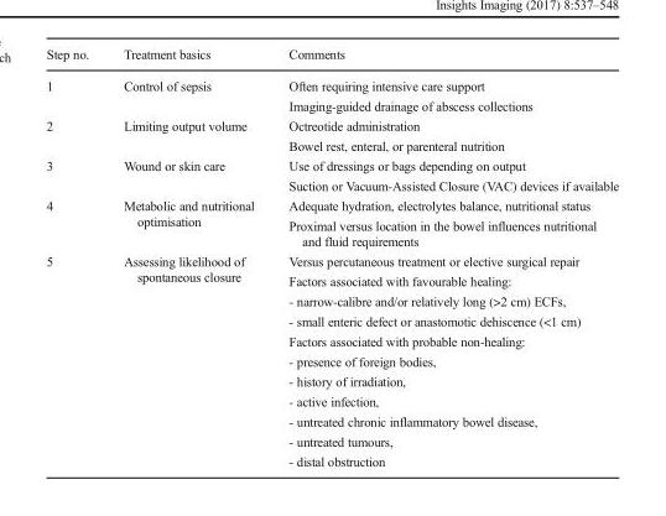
<table><thead><tr><td>Step no.</td><td>Treatment basics</td><td>Comments</td></tr></thead><tbody><tr><td>1</td><td>Control of sepsis</td><td>Often requiring intensive care support Imaging-guided drainage of abscess collections</td></tr><tr><td>2</td><td>Limiting output volume</td><td>Octreotide administration Bowel rest, enteral, or parenteral nutrition</td></tr><tr><td>3</td><td>Wound or skin care</td><td>Use of dressings or bags depending on output Suction or Vacuum-Assisted Closure (VAC) devices if available</td></tr><tr><td>4</td><td>Metabolic and nutritional optimisation</td><td>Adequate hydration, electrolytes balance, nutritional status Proximal versus location in the bowel influences nutritional and fluid requirements</td></tr><tr><td>5</td><td>Assessing likelihood of spontaneous closure</td><td>Versus percutaneous treatment or elective surgical repair Factors associated with favourable healing: - narrow-calibre and/or relatively long (&gt;2 cm) ECFs, - small enteric defect or anastomotic dehiscence (&lt;1 cm) Factors associated with probable non-healing: - presence of foreign bodies, - history of irradiation, - active infection, - untreated chronic inflammatory bowel disease, - untreated tumours, - distal obstruction</td></tr></tbody></table>